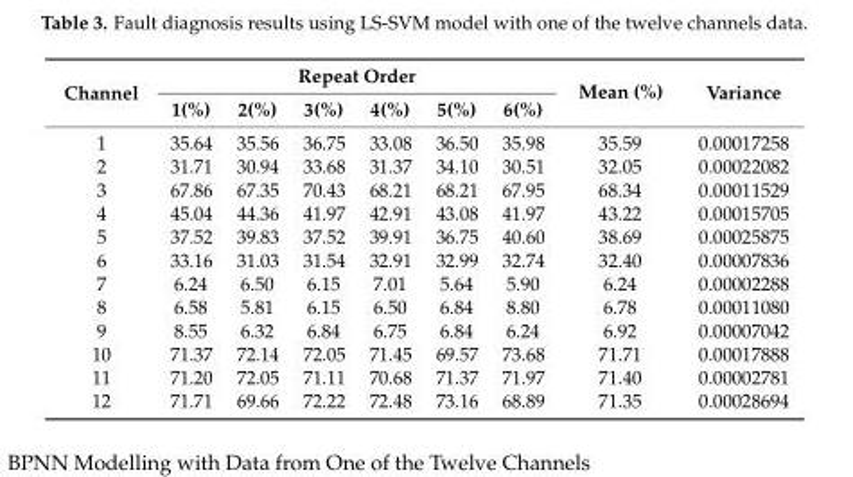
<table><thead><tr><td rowspan="2">Channel</td><td colspan="6">Repeat Order</td><td rowspan="2">Mean (%)</td><td rowspan="2">Variance</td></tr><tr><td>1(%)</td><td>2(%)</td><td>3(%)</td><td>4(%)</td><td>5(%)</td><td>6(%)</td></tr></thead><tbody><tr><td>1</td><td>35.64</td><td>35.56</td><td>36.75</td><td>33.08</td><td>36.50</td><td>35.98</td><td>35.59</td><td>0.00017258</td></tr><tr><td>2</td><td>31.71</td><td>30.94</td><td>33.68</td><td>31.37</td><td>34.10</td><td>30.51</td><td>32.05</td><td>0.00022082</td></tr><tr><td>3</td><td>67.86</td><td>67.35</td><td>70.43</td><td>68.21</td><td>68.21</td><td>67.95</td><td>68.34</td><td>0.00011529</td></tr><tr><td>4</td><td>45.04</td><td>44.36</td><td>41.97</td><td>42.91</td><td>43.08</td><td>41.97</td><td>43.22</td><td>0.00015705</td></tr><tr><td>5</td><td>37.52</td><td>39.83</td><td>37.52</td><td>39.91</td><td>36.75</td><td>40.60</td><td>38.69</td><td>0.00025875</td></tr><tr><td>6</td><td>33.16</td><td>31.03</td><td>31.54</td><td>32.91</td><td>32.99</td><td>32.74</td><td>32.40</td><td>0.00007836</td></tr><tr><td>7</td><td>6.24</td><td>6.50</td><td>6.15</td><td>7.01</td><td>5.64</td><td>5.90</td><td>6.24</td><td>0.00002288</td></tr><tr><td>8</td><td>6.58</td><td>5.81</td><td>6.15</td><td>6.50</td><td>6.84</td><td>8.80</td><td>6.78</td><td>0.00011080</td></tr><tr><td>9</td><td>8.55</td><td>6.32</td><td>6.84</td><td>6.75</td><td>6.84</td><td>6.24</td><td>6.92</td><td>0.00007042</td></tr><tr><td>10</td><td>71.37</td><td>72.14</td><td>72.05</td><td>71.45</td><td>69.57</td><td>73.68</td><td>71.71</td><td>0.00017888</td></tr><tr><td>11</td><td>71.20</td><td>72.05</td><td>71.11</td><td>70.68</td><td>71.37</td><td>71.97</td><td>71.40</td><td>0.00002781</td></tr><tr><td>12</td><td>71.71</td><td>69.66</td><td>72.22</td><td>72.48</td><td>73.16</td><td>68.89</td><td>71.35</td><td>0.00028694</td></tr></tbody></table>